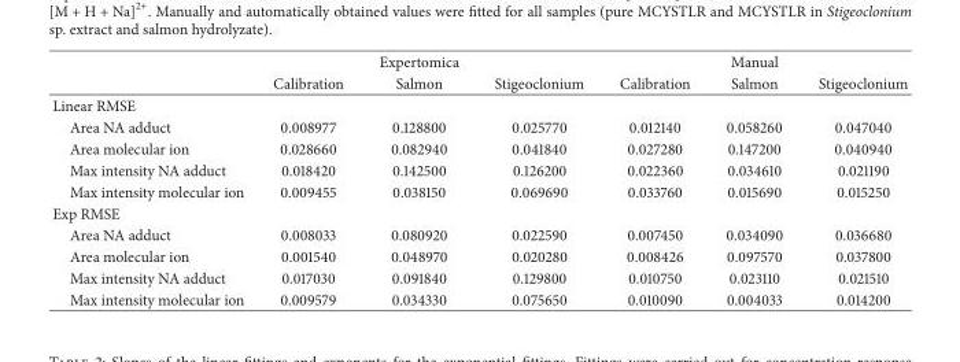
<table><thead><tr><td rowspan="2"></td><td rowspan="2">Calibration</td><td rowspan="2">Expertomica Salmon</td><td rowspan="2">Stigeoclonium</td><td rowspan="2">Calibration</td><td rowspan="2">Manual Salmon</td><td rowspan="2">Stigeoclonium</td></tr><tr></tr></thead><tbody><tr><td colspan="7">Linear RMSE</td></tr><tr><td>Area NA adduct</td><td>0.008977</td><td>0.128800</td><td>0.025770</td><td>0.012140</td><td>0.058260</td><td>0.047040</td></tr><tr><td>Area molecular ion</td><td>0.028660</td><td>0.082940</td><td>0.041840</td><td>0.027280</td><td>0.147200</td><td>0.040940</td></tr><tr><td>Max intensity NA adduct</td><td>0.018420</td><td>0.142500</td><td>0.126200</td><td>0.022360</td><td>0.034610</td><td>0.021190</td></tr><tr><td>Max intensity molecular ion</td><td>0.009455</td><td>0.038150</td><td>0.069690</td><td>0.033760</td><td>0.015690</td><td>0.015250</td></tr><tr><td colspan="7">Exp RMSE</td></tr><tr><td>Area NA adduct</td><td>0.008033</td><td>0.080920</td><td>0.022590</td><td>0.007450</td><td>0.034090</td><td>0.036680</td></tr><tr><td>Area molecular ion</td><td>0.001540</td><td>0.048970</td><td>0.020280</td><td>0.008426</td><td>0.097570</td><td>0.037800</td></tr><tr><td>Max intensity NA adduct</td><td>0.017030</td><td>0.091840</td><td>0.129800</td><td>0.010750</td><td>0.023110</td><td>0.021510</td></tr><tr><td>Max intensity molecular ion</td><td>0.009579</td><td>0.034330</td><td>0.075650</td><td>0.010090</td><td>0.004033</td><td>0.014200</td></tr></tbody></table>